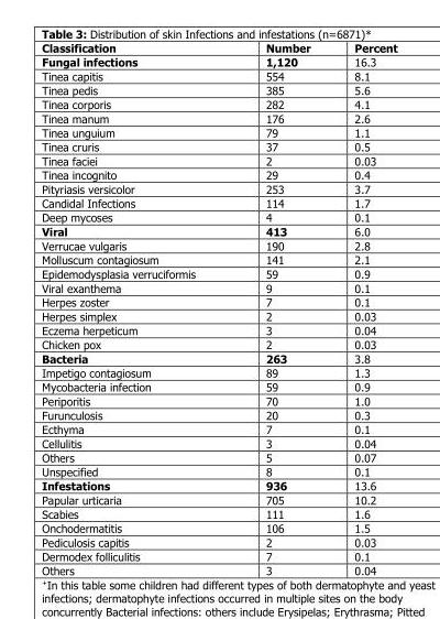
<table><thead><tr><td>Classification</td><td>Number</td><td>Percent</td></tr></thead><tbody><tr><td>Fungal infections</td><td>1,120</td><td>16.3</td></tr><tr><td>Tinea capitis</td><td>554</td><td>8.1</td></tr><tr><td>Tinea pedis</td><td>385</td><td>5.6</td></tr><tr><td>Tinea corporis</td><td>282</td><td>4.1</td></tr><tr><td>Tinea manum</td><td>176</td><td>2.6</td></tr><tr><td>Tinea unguium</td><td>79</td><td>1.1</td></tr><tr><td>Tinea cruris</td><td>37</td><td>0.5</td></tr><tr><td>Tinea faciei</td><td>2</td><td>0.03</td></tr><tr><td>Tinea incognito</td><td>29</td><td>0.4</td></tr><tr><td>Pityriasis versicolor</td><td>253</td><td>3.7</td></tr><tr><td>Candidal Infections</td><td>114</td><td>1.7</td></tr><tr><td>Deep mycoses</td><td>4</td><td>0.1</td></tr><tr><td>Viral</td><td>413</td><td>6.0</td></tr><tr><td>Verrucae vulgaris</td><td>190</td><td>2.8</td></tr><tr><td>Molluscum contagiosum</td><td>141</td><td>2.1</td></tr><tr><td>Epidemodysplasia verruciformis</td><td>59</td><td>0.9</td></tr><tr><td>Viral exanthema</td><td>9</td><td>0.1</td></tr><tr><td>Herpes zoster</td><td>7</td><td>0.1</td></tr><tr><td>Herpes simplex</td><td>2</td><td>0.03</td></tr><tr><td>Eczema herpeticum</td><td>3</td><td>0.04</td></tr><tr><td>Chicken pox</td><td>2</td><td>0.03</td></tr><tr><td>Bacteria</td><td>263</td><td>3.8</td></tr><tr><td>Impetigo contagiosum</td><td>89</td><td>1.3</td></tr><tr><td>Mycobacteria infection</td><td>59</td><td>0.9</td></tr><tr><td>Periporitis</td><td>70</td><td>1.0</td></tr><tr><td>Furunculosis</td><td>20</td><td>0.3</td></tr><tr><td>Ecthyma</td><td>7</td><td>0.1</td></tr><tr><td>Cellulitis</td><td>3</td><td>0.04</td></tr><tr><td>Others</td><td>5</td><td>0.07</td></tr><tr><td>Unspecified</td><td>8</td><td>0.1</td></tr><tr><td>Infestations</td><td>936</td><td>13.6</td></tr><tr><td>Papular urticaria</td><td>705</td><td>10.2</td></tr><tr><td>Scabies</td><td>111</td><td>1.6</td></tr><tr><td>Onchodermatitis</td><td>106</td><td>1.5</td></tr><tr><td>Pediculosis capitis</td><td>2</td><td>0.03</td></tr><tr><td>Dermodex folliculitis</td><td>7</td><td>0.1</td></tr><tr><td>Others</td><td>3</td><td>0.04</td></tr></tbody></table>